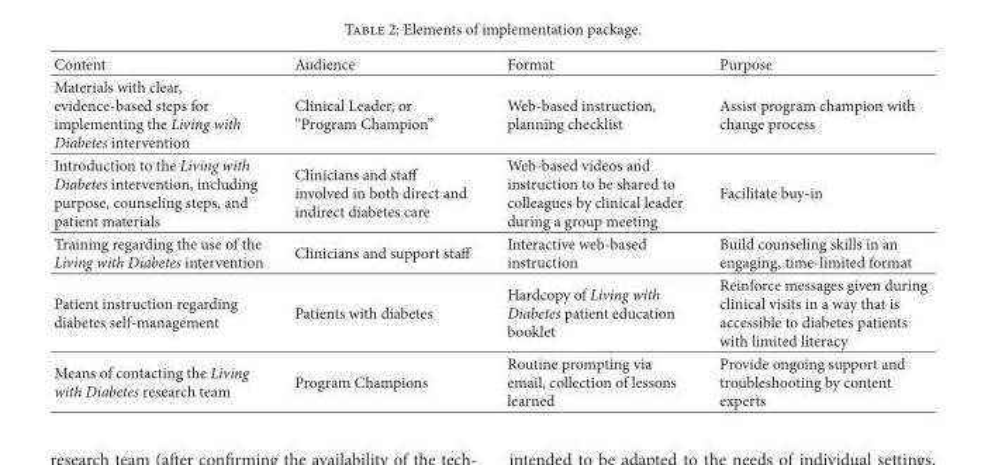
<table><thead><tr><td>Content</td><td>Audience</td><td>Format</td><td>Purpose</td></tr></thead><tbody><tr><td>Materials with clear, evidence-based steps for implementing the Living with Diabetes intervention</td><td>Clinical Leader, or “Program Champion”</td><td>Web-based instruction, planning checklist</td><td>Assist program champion with change process</td></tr><tr><td>Introduction to the Living with Diabetes intervention, including purpose, counseling steps, and patient materials</td><td>Clinicians and staff involved in both direct and indirect diabetes care</td><td>Web-based videos and instruction to be shared to colleagues by clinical leader during a group meeting</td><td>Facilitate buy-in</td></tr><tr><td>Training regarding the use of the Living with Diabetes intervention</td><td>Clinicians and support staff</td><td>Interactive web-based instruction</td><td>Build counseling skills in an engaging, time-limited format</td></tr><tr><td>Patient instruction regarding diabetes self-management</td><td>Patients with diabetes</td><td>Hardcopy of Living with Diabetes patient education booklet</td><td>Reinforce messages given during clinical visits in a way that is accessible to diabetes patients with limited literacy</td></tr><tr><td>Means of contacting the Living with Diabetes research team</td><td>Program Champions</td><td>Routine prompting via email, collection of lessons learned</td><td>Provide ongoing support and troubleshooting by content experts</td></tr></tbody></table>